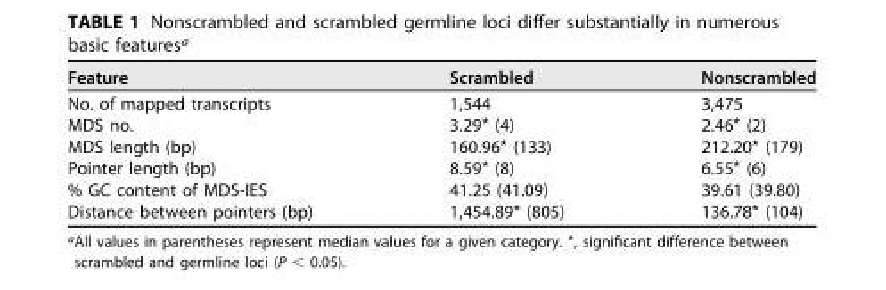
<table><thead><tr><td>Feature</td><td>Scrambled</td><td>Nonscrambled</td></tr></thead><tbody><tr><td>No. of mapped transcripts</td><td>1,544</td><td>3,475</td></tr><tr><td>MDS no.</td><td>3.29* (4)</td><td>2.46* (2)</td></tr><tr><td>MDS length (bp)</td><td>160.96* (133)</td><td>212.20* (179)</td></tr><tr><td>Pointer length (bp)</td><td>8.59* (8)</td><td>6.55* (6)</td></tr><tr><td>% GC content of MDS-IES</td><td>41.25 (41.09)</td><td>39.61 (39.80)</td></tr><tr><td>Distance between pointers (bp)</td><td>1,454.89* (805)</td><td>136.78* (104)</td></tr></tbody></table>